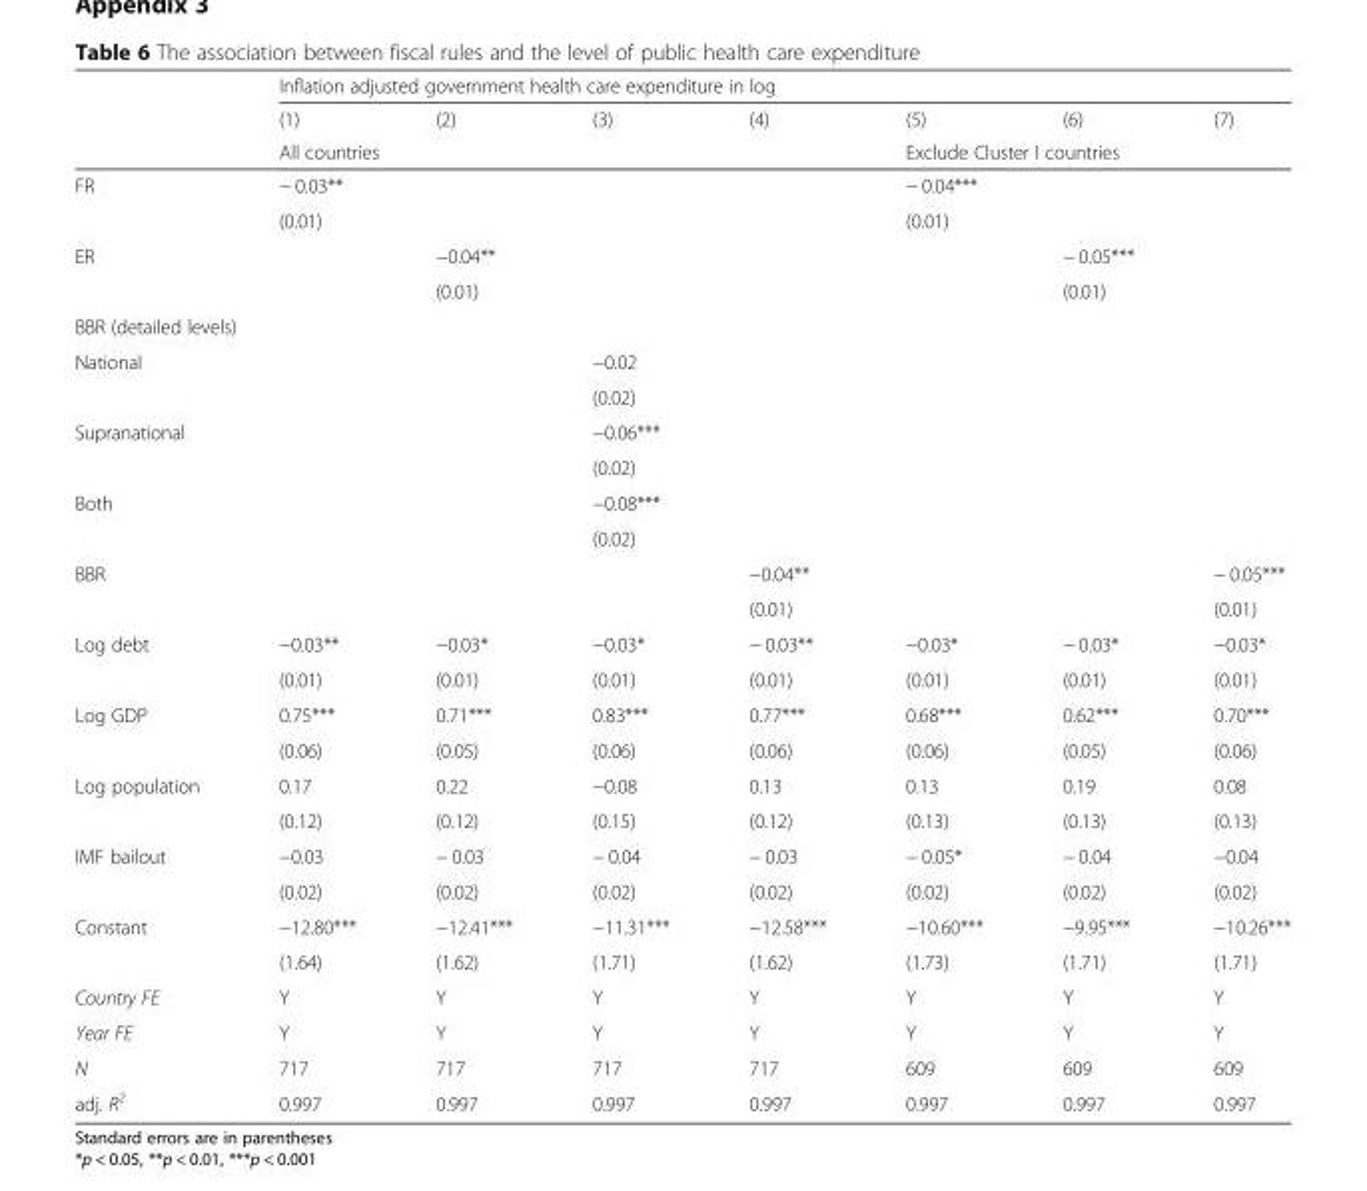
<table><thead><tr><td rowspan="3"></td><td colspan="7">Inflation adjusted government health care expenditure in log</td></tr><tr><td>(1)</td><td>(2)</td><td>(3)</td><td>(4)</td><td>(5)</td><td>(6)</td><td>(7)</td></tr><tr><td colspan="4">All countries</td><td colspan="3">Exclude Cluster I countries</td></tr></thead><tbody><tr><td rowspan="2">FR</td><td>− 0.03**</td><td></td><td></td><td></td><td>− 0.04***</td><td></td><td></td></tr><tr><td>(0.01)</td><td></td><td></td><td></td><td>(0.01)</td><td></td><td></td></tr><tr><td rowspan="2">ER</td><td></td><td>−0.04**</td><td></td><td></td><td></td><td>− 0.05***</td><td></td></tr><tr><td></td><td>(0.01)</td><td></td><td></td><td></td><td>(0.01)</td><td></td></tr><tr><td colspan="8">BBR (detailed levels)</td></tr><tr><td rowspan="2">National</td><td></td><td></td><td>−0.02</td><td></td><td></td><td></td><td></td></tr><tr><td></td><td></td><td>(0.02)</td><td></td><td></td><td></td><td></td></tr><tr><td rowspan="2">Supranational</td><td></td><td></td><td>−0.06***</td><td></td><td></td><td></td><td></td></tr><tr><td></td><td></td><td>(0.02)</td><td></td><td></td><td></td><td></td></tr><tr><td rowspan="2">Both</td><td></td><td></td><td>−0.08***</td><td></td><td></td><td></td><td></td></tr><tr><td></td><td></td><td>(0.02)</td><td></td><td></td><td></td><td></td></tr><tr><td rowspan="2">BBR</td><td></td><td></td><td></td><td>−0.04**</td><td></td><td></td><td>− 0.05***</td></tr><tr><td></td><td></td><td></td><td>(0.01)</td><td></td><td></td><td>(0.01)</td></tr><tr><td rowspan="2">Log debt</td><td>−0.03**</td><td>−0.03*</td><td>−0.03*</td><td>− 0.03**</td><td>−0.03*</td><td>− 0.03*</td><td>−0.03*</td></tr><tr><td>(0.01)</td><td>(0.01)</td><td>(0.01)</td><td>(0.01)</td><td>(0.01)</td><td>(0.01)</td><td>(0.01)</td></tr><tr><td rowspan="2">Log GDP</td><td>0.75***</td><td>0.71***</td><td>0.83***</td><td>0.77***</td><td>0.68***</td><td>0.62***</td><td>0.70***</td></tr><tr><td>(0.06)</td><td>(0.05)</td><td>(0.06)</td><td>(0.06)</td><td>(0.06)</td><td>(0.05)</td><td>(0.06)</td></tr><tr><td rowspan="2">Log population</td><td>0.17</td><td>0.22</td><td>−0.08</td><td>0.13</td><td>0.13</td><td>0.19</td><td>0.08</td></tr><tr><td>(0.12)</td><td>(0.12)</td><td>(0.15)</td><td>(0.12)</td><td>(0.13)</td><td>(0.13)</td><td>(0.13)</td></tr><tr><td rowspan="2">IMF bailout</td><td>−0.03</td><td>− 0.03</td><td>− 0.04</td><td>− 0.03</td><td>− 0.05*</td><td>− 0.04</td><td>−0.04</td></tr><tr><td>(0.02)</td><td>(0.02)</td><td>(0.02)</td><td>(0.02)</td><td>(0.02)</td><td>(0.02)</td><td>(0.02)</td></tr><tr><td rowspan="2">Constant</td><td>−12.80***</td><td>−12.41***</td><td>−11.31***</td><td>−12.58***</td><td>−10.60***</td><td>−9.95***</td><td>−10.26***</td></tr><tr><td>(1.64)</td><td>(1.62)</td><td>(1.71)</td><td>(1.62)</td><td>(1.73)</td><td>(1.71)</td><td>(1.71)</td></tr><tr><td>Country FE</td><td>Y</td><td>Y</td><td>Y</td><td>Y</td><td>Y</td><td>Y</td><td>Y</td></tr><tr><td>Year FE</td><td>Y</td><td>Y</td><td>Y</td><td>Y</td><td>Y</td><td>Y</td><td>Y</td></tr><tr><td>N</td><td>717</td><td>717</td><td>717</td><td>717</td><td>609</td><td>609</td><td>609</td></tr><tr><td>adj. R<sup>2</sup></td><td>0.997</td><td>0.997</td><td>0.997</td><td>0.997</td><td>0.997</td><td>0.997</td><td>0.997</td></tr></tbody></table>